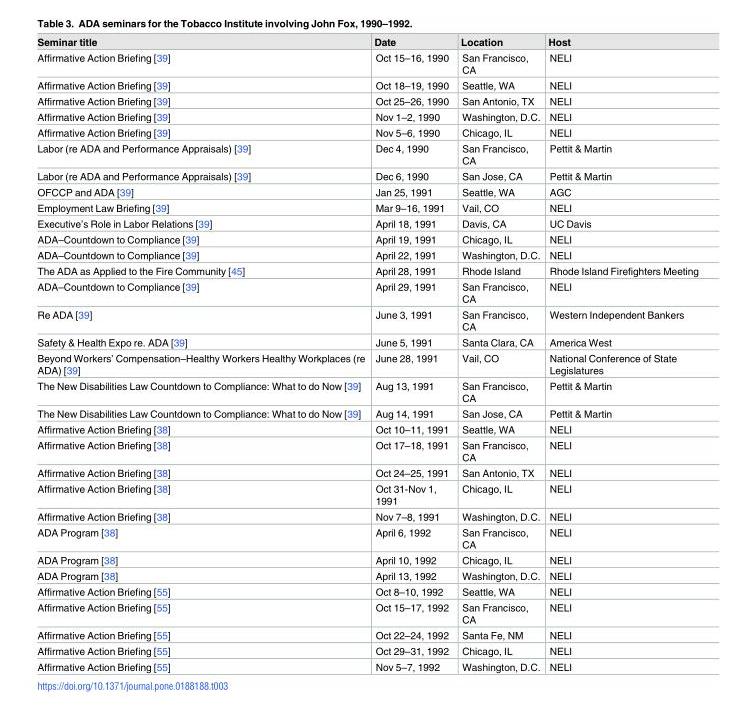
<table><thead><tr><td>Seminar title</td><td>Date</td><td>Location</td><td>Host</td></tr></thead><tbody><tr><td>Affirmative Action Briefing [39]</td><td>Oct 15–16, 1990</td><td>San Francisco, CA</td><td>NELI</td></tr><tr><td>Affirmative Action Briefing [39]</td><td>Oct 18–19, 1990</td><td>Seattle, WA</td><td>NELI</td></tr><tr><td>Affirmative Action Briefing [39]</td><td>Oct 25–26, 1990</td><td>San Antonio, TX</td><td>NELI</td></tr><tr><td>Affirmative Action Briefing [39]</td><td>Nov 1–2, 1990</td><td>Washington, D.C.</td><td>NELI</td></tr><tr><td>Affirmative Action Briefing [39]</td><td>Nov 5–6, 1990</td><td>Chicago, IL</td><td>NELI</td></tr><tr><td>Labor (re ADA and Performance Appraisals) [39]</td><td>Dec 4, 1990</td><td>San Francisco, CA</td><td>Pettit &amp; Martin</td></tr><tr><td>Labor (re ADA and Performance Appraisals) [39]</td><td>Dec 6, 1990</td><td>San Jose, CA</td><td>Pettit &amp; Martin</td></tr><tr><td>OFCCP and ADA [39]</td><td>Jan 25, 1991</td><td>Seattle, WA</td><td>AGC</td></tr><tr><td>Employment Law Briefing [39]</td><td>Mar 9–16, 1991</td><td>Vail, CO</td><td>NELI</td></tr><tr><td>Executive’s Role in Labor Relations [39]</td><td>April 18, 1991</td><td>Davis, CA</td><td>UC Davis</td></tr><tr><td>ADA–Countdown to Compliance [39]</td><td>April 19, 1991</td><td>Chicago, IL</td><td>NELI</td></tr><tr><td>ADA–Countdown to Compliance [39]</td><td>April 22, 1991</td><td>Washington, D.C.</td><td>NELI</td></tr><tr><td>The ADA as Applied to the Fire Community [45]</td><td>April 28, 1991</td><td>Rhode Island</td><td>Rhode Island Firefighters Meeting</td></tr><tr><td>ADA–Countdown to Compliance [39]</td><td>April 29, 1991</td><td>San Francisco, CA</td><td>NELI</td></tr><tr><td>Re ADA [39]</td><td>June 3, 1991</td><td>San Francisco, CA</td><td>Western Independent Bankers</td></tr><tr><td>Safety &amp; Health Expo re. ADA [39]</td><td>June 5, 1991</td><td>Santa Clara, CA</td><td>America West</td></tr><tr><td>Beyond Workers’ Compensation–Healthy Workers Healthy Workplaces (re ADA) [39]</td><td>June 28, 1991</td><td>Vail, CO</td><td>National Conference of State Legislatures</td></tr><tr><td>The New Disabilities Law Countdown to Compliance: What to do Now [39]</td><td>Aug 13, 1991</td><td>San Francisco, CA</td><td>Pettit &amp; Martin</td></tr><tr><td>The New Disabilities Law Countdown to Compliance: What to do Now [39]</td><td>Aug 14, 1991</td><td>San Jose, CA</td><td>Pettit &amp; Martin</td></tr><tr><td>Affirmative Action Briefing [38]</td><td>Oct 10–11, 1991</td><td>Seattle, WA</td><td>NELI</td></tr><tr><td>Affirmative Action Briefing [38]</td><td>Oct 17–18, 1991</td><td>San Francisco, CA</td><td>NELI</td></tr><tr><td>Affirmative Action Briefing [38]</td><td>Oct 24–25, 1991</td><td>San Antonio, TX</td><td>NELI</td></tr><tr><td>Affirmative Action Briefing [38]</td><td>Oct 31-Nov 1, 1991</td><td>Chicago, IL</td><td>NELI</td></tr><tr><td>Affirmative Action Briefing [38]</td><td>Nov 7–8, 1991</td><td>Washington, D.C.</td><td>NELI</td></tr><tr><td>ADA Program [38]</td><td>April 6, 1992</td><td>San Francisco, CA</td><td>NELI</td></tr><tr><td>ADA Program [38]</td><td>April 10, 1992</td><td>Chicago, IL</td><td>NELI</td></tr><tr><td>ADA Program [38]</td><td>April 13, 1992</td><td>Washington, D.C.</td><td>NELI</td></tr><tr><td>Affirmative Action Briefing [55]</td><td>Oct 8–10, 1992</td><td>Seattle, WA</td><td>NELI</td></tr><tr><td>Affirmative Action Briefing [55]</td><td>Oct 15–17, 1992</td><td>San Francisco, CA</td><td>NELI</td></tr><tr><td>Affirmative Action Briefing [55]</td><td>Oct 22–24, 1992</td><td>Santa Fe, NM</td><td>NELI</td></tr><tr><td>Affirmative Action Briefing [55]</td><td>Oct 29–31, 1992</td><td>Chicago, IL</td><td>NELI</td></tr><tr><td>Affirmative Action Briefing [55]</td><td>Nov 5–7, 1992</td><td>Washington, D.C.</td><td>NELI</td></tr></tbody></table>